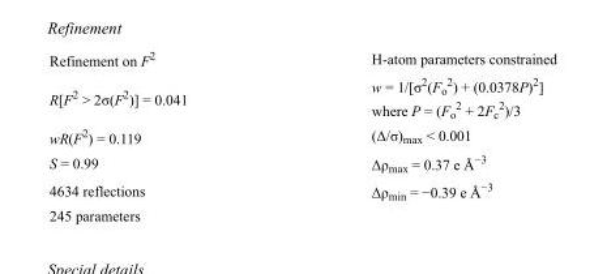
<table><tbody><tr><td>Refinement on F<sup>2</sup></td><td>H-atom parameters constrained</td></tr><tr><td>R[F<sup>2</sup> &gt; 2σ(F<sup>2</sup>)] = 0.041</td><td>w = 1/[σ<sup>2</sup>(F<sub>o</sub> <sup>2</sup>) + (0.0378P)<sup>2</sup>] where P = (F<sub>o</sub> <sup>2</sup> + 2F<sub>c</sub> <sup>2</sup>)/3</td></tr><tr><td>wR(F<sup>2</sup>) = 0.119</td><td>(Δ/σ)<sub>max</sub> &lt; 0.001</td></tr><tr><td>S = 0.99</td><td>Δρ<sub>max</sub> = 0.37 e Å<sup>−3</sup></td></tr><tr><td>4634 reflections</td><td>Δρ<sub>min</sub> = −0.39 e Å<sup>−3</sup></td></tr><tr><td>245 parameters</td><td></td></tr></tbody></table>